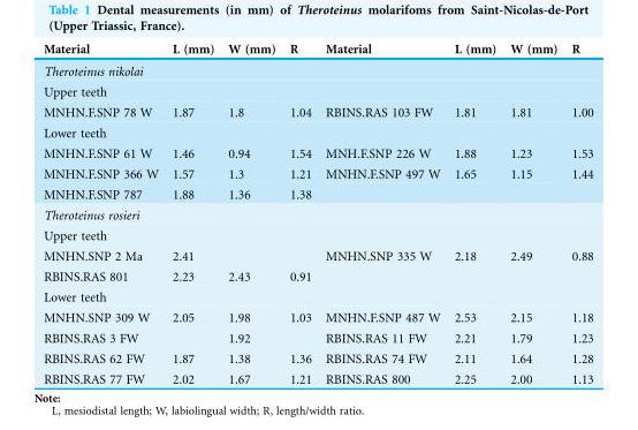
<table><thead><tr><td>Material</td><td>L (mm)</td><td>W (mm)</td><td>R</td><td>Material</td><td>L (mm)</td><td>W (mm)</td><td>R</td></tr></thead><tbody><tr><td colspan="8">Theroteinus nikolai</td></tr><tr><td colspan="8">Upper teeth</td></tr><tr><td>MNHN.F.SNP 78 W</td><td>1.87</td><td>1.8</td><td>1.04</td><td>RBINS.RAS 103 FW</td><td>1.81</td><td>1.81</td><td>1.00</td></tr><tr><td colspan="8">Lower teeth</td></tr><tr><td>MNHN.F.SNP 61 W</td><td>1.46</td><td>0.94</td><td>1.54</td><td>MNH.F.SNP 226 W</td><td>1.88</td><td>1.23</td><td>1.53</td></tr><tr><td>MNHN.F.SNP 366 W</td><td>1.57</td><td>1.3</td><td>1.21</td><td>MNHN.F.SNP 497 W</td><td>1.65</td><td>1.15</td><td>1.44</td></tr><tr><td>MNHN.F.SNP 787</td><td>1.88</td><td>1.36</td><td>1.38</td><td></td><td></td><td></td><td></td></tr><tr><td colspan="8">Theroteinus rosieri</td></tr><tr><td colspan="8">Upper teeth</td></tr><tr><td>MNHN.SNP 2 Ma</td><td>2.41</td><td></td><td></td><td>MNHN.SNP 335 W</td><td>2.18</td><td>2.49</td><td>0.88</td></tr><tr><td>RBINS.RAS 801</td><td>2.23</td><td>2.43</td><td>0.91</td><td></td><td></td><td></td><td></td></tr><tr><td colspan="8">Lower teeth</td></tr><tr><td>MNHN.SNP 309 W</td><td>2.05</td><td>1.98</td><td>1.03</td><td>MNHN.F.SNP 487 W</td><td>2.53</td><td>2.15</td><td>1.18</td></tr><tr><td>RBINS.RAS 3 FW</td><td></td><td>1.92</td><td></td><td>RBINS.RAS 11 FW</td><td>2.21</td><td>1.79</td><td>1.23</td></tr><tr><td>RBINS.RAS 62 FW</td><td>1.87</td><td>1.38</td><td>1.36</td><td>RBINS.RAS 74 FW</td><td>2.11</td><td>1.64</td><td>1.28</td></tr><tr><td>RBINS.RAS 77 FW</td><td>2.02</td><td>1.67</td><td>1.21</td><td>RBINS.RAS 800</td><td>2.25</td><td>2.00</td><td>1.13</td></tr></tbody></table>